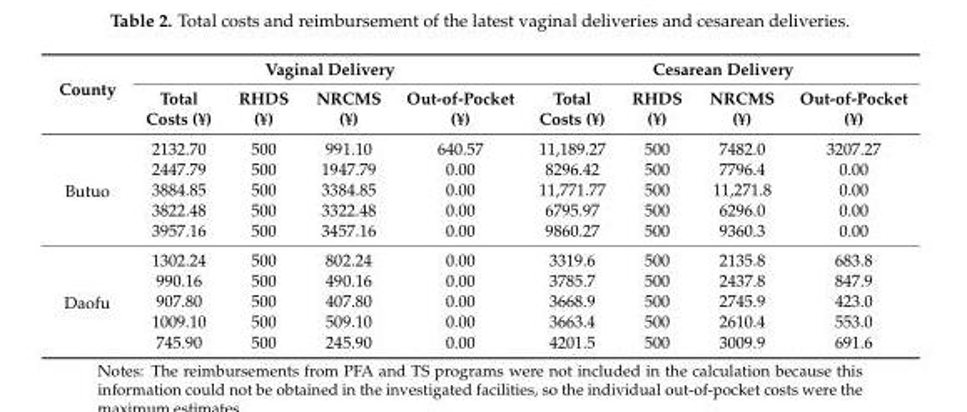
<table><thead><tr><td rowspan="2">County</td><td colspan="4">Vaginal Delivery</td><td colspan="4">Cesarean Delivery</td></tr><tr><td>Total Costs (¥)</td><td>RHDS (¥)</td><td>NRCMS (¥)</td><td>Out-of-Pocket (¥)</td><td>Total Costs (¥)</td><td>RHDS (¥)</td><td>NRCMS (¥)</td><td>Out-of-Pocket (¥)</td></tr></thead><tbody><tr><td rowspan="5">Butuo</td><td>2132.70</td><td>500</td><td>991.10</td><td>640.57</td><td>11,189.27</td><td>500</td><td>7482.0</td><td>3207.27</td></tr><tr><td>2447.79</td><td>500</td><td>1947.79</td><td>0.00</td><td>8296.42</td><td>500</td><td>7796.4</td><td>0.00</td></tr><tr><td>3884.85</td><td>500</td><td>3384.85</td><td>0.00</td><td>11,771.77</td><td>500</td><td>11,271.8</td><td>0.00</td></tr><tr><td>3822.48</td><td>500</td><td>3322.48</td><td>0.00</td><td>6795.97</td><td>500</td><td>6296.0</td><td>0.00</td></tr><tr><td>3957.16</td><td>500</td><td>3457.16</td><td>0.00</td><td>9860.27</td><td>500</td><td>9360.3</td><td>0.00</td></tr><tr><td rowspan="5">Daofu</td><td>1302.24</td><td>500</td><td>802.24</td><td>0.00</td><td>3319.6</td><td>500</td><td>2135.8</td><td>683.8</td></tr><tr><td>990.16</td><td>500</td><td>490.16</td><td>0.00</td><td>3785.7</td><td>500</td><td>2437.8</td><td>847.9</td></tr><tr><td>907.80</td><td>500</td><td>407.80</td><td>0.00</td><td>3668.9</td><td>500</td><td>2745.9</td><td>423.0</td></tr><tr><td>1009.10</td><td>500</td><td>509.10</td><td>0.00</td><td>3663.4</td><td>500</td><td>2610.4</td><td>553.0</td></tr><tr><td>745.90</td><td>500</td><td>245.90</td><td>0.00</td><td>4201.5</td><td>500</td><td>3009.9</td><td>691.6</td></tr></tbody></table>